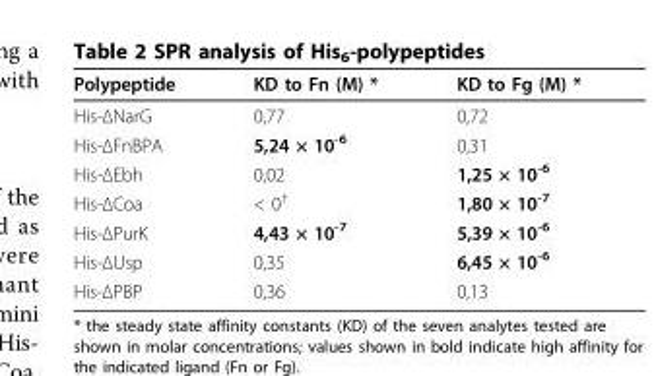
<table><thead><tr><td>Polypeptide</td><td>KD to Fn (M) *</td><td>KD to Fg (M) *</td></tr></thead><tbody><tr><td>His-ΔNarG</td><td>0,77</td><td>0,72</td></tr><tr><td>His-ΔFnBPA</td><td>5,24 × 10<sup>-6</sup></td><td>0,31</td></tr><tr><td>His-ΔEbh</td><td>0,02</td><td>1,25 × 10<sup>-6</sup></td></tr><tr><td>His-ΔCoa</td><td>&lt; 0<sup>†</sup></td><td>1,80 × 10<sup>-7</sup></td></tr><tr><td>His-ΔPurK</td><td>4,43 × 10<sup>-7</sup></td><td>5,39 × 10<sup>-6</sup></td></tr><tr><td>His-ΔUsp</td><td>0,35</td><td>6,45 × 10<sup>-6</sup></td></tr><tr><td>His-ΔPBP</td><td>0,36</td><td>0,13</td></tr></tbody></table>